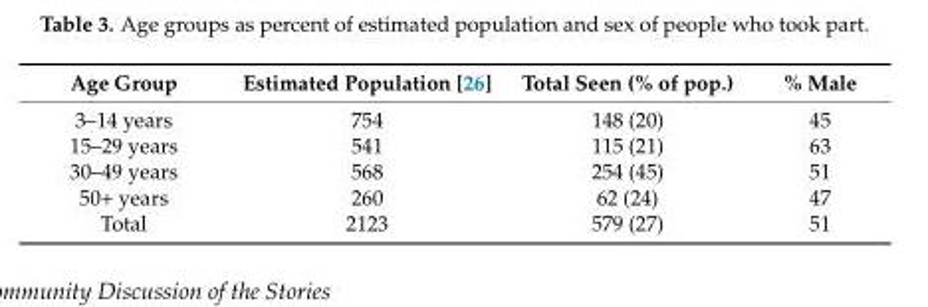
<table><thead><tr><td>Age Group</td><td>Estimated Population [26]</td><td>Total Seen (% of pop.)</td><td>% Male</td></tr></thead><tbody><tr><td>3–14 years</td><td>754</td><td>148 (20)</td><td>45</td></tr><tr><td>15–29 years</td><td>541</td><td>115 (21)</td><td>63</td></tr><tr><td>30–49 years</td><td>568</td><td>254 (45)</td><td>51</td></tr><tr><td>50+ years</td><td>260</td><td>62 (24)</td><td>47</td></tr><tr><td>Total</td><td>2123</td><td>579 (27)</td><td>51</td></tr></tbody></table>